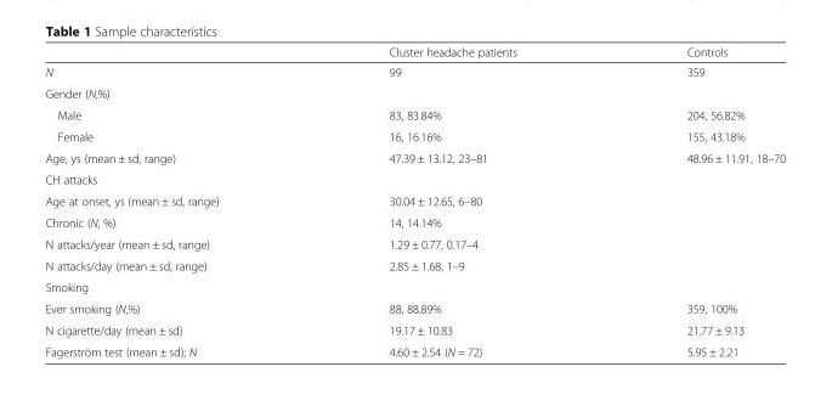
<table><thead><tr><td></td><td>Cluster headache patients</td><td>Controls</td></tr></thead><tbody><tr><td>N</td><td>99</td><td>359</td></tr><tr><td colspan="3">Gender (N,%)</td></tr><tr><td>Male</td><td>83, 83.84%</td><td>204, 56.82%</td></tr><tr><td>Female</td><td>16, 16.16%</td><td>155, 43.18%</td></tr><tr><td>Age, ys (mean ± sd, range)</td><td>47.39 ± 13.12, 23–81</td><td>48.96 ± 11.91, 18–70</td></tr><tr><td colspan="3">CH attacks</td></tr><tr><td>Age at onset, ys (mean ± sd, range)</td><td>30.04 ± 12.65, 6–80</td><td></td></tr><tr><td>Chronic (N, %)</td><td>14, 14.14%</td><td></td></tr><tr><td>N attacks/year (mean ± sd, range)</td><td>1.29 ± 0.77, 0.17–4</td><td></td></tr><tr><td>N attacks/day (mean ± sd, range)</td><td>2.85 ± 1.68, 1–9</td><td></td></tr><tr><td colspan="3">Smoking</td></tr><tr><td>Ever smoking (N,%)</td><td>88, 88.89%</td><td>359, 100%</td></tr><tr><td>N cigarette/day (mean ± sd)</td><td>19.17 ± 10.83</td><td>21.77 ± 9.13</td></tr><tr><td>Fagerström test (mean ± sd); N</td><td>4.60 ± 2.54 (N = 72)</td><td>5.95 ± 2.21</td></tr></tbody></table>